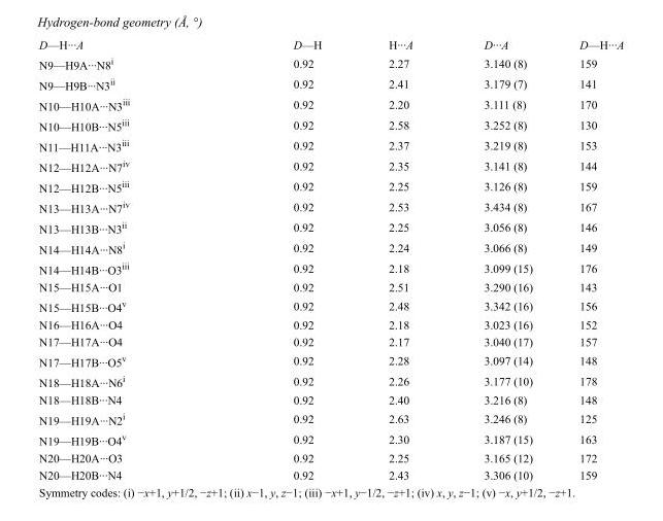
<table><tbody><tr><td>D—H···A</td><td>D—H</td><td>H···A</td><td>D···A</td><td>D—H···A</td></tr><tr><td>N9—H9A···N8<sup>i</sup></td><td>0.92</td><td>2.27</td><td>3.140 (8)</td><td>159</td></tr><tr><td>N9—H9B···N3<sup>ii</sup></td><td>0.92</td><td>2.41</td><td>3.179 (7)</td><td>141</td></tr><tr><td>N10—H10A···N3<sup>iii</sup></td><td>0.92</td><td>2.20</td><td>3.111 (8)</td><td>170</td></tr><tr><td>N10—H10B···N5<sup>iii</sup></td><td>0.92</td><td>2.58</td><td>3.252 (8)</td><td>130</td></tr><tr><td>N11—H11A···N3<sup>iii</sup></td><td>0.92</td><td>2.37</td><td>3.219 (8)</td><td>153</td></tr><tr><td>N12—H12A···N7<sup>iv</sup></td><td>0.92</td><td>2.35</td><td>3.141 (8)</td><td>144</td></tr><tr><td>N12—H12B···N5<sup>iii</sup></td><td>0.92</td><td>2.25</td><td>3.126 (8)</td><td>159</td></tr><tr><td>N13—H13A···N7<sup>iv</sup></td><td>0.92</td><td>2.53</td><td>3.434 (8)</td><td>167</td></tr><tr><td>N13—H13B···N3<sup>ii</sup></td><td>0.92</td><td>2.25</td><td>3.056 (8)</td><td>146</td></tr><tr><td>N14—H14A···N8<sup>i</sup></td><td>0.92</td><td>2.24</td><td>3.066 (8)</td><td>149</td></tr><tr><td>N14—H14B···O3<sup>iii</sup></td><td>0.92</td><td>2.18</td><td>3.099 (15)</td><td>176</td></tr><tr><td>N15—H15A···O1</td><td>0.92</td><td>2.51</td><td>3.290 (16)</td><td>143</td></tr><tr><td>N15—H15B···O4<sup>v</sup></td><td>0.92</td><td>2.48</td><td>3.342 (16)</td><td>156</td></tr><tr><td>N16—H16A···O4</td><td>0.92</td><td>2.18</td><td>3.023 (16)</td><td>152</td></tr><tr><td>N17—H17A···O4</td><td>0.92</td><td>2.17</td><td>3.040 (17)</td><td>157</td></tr><tr><td>N17—H17B···O5<sup>v</sup></td><td>0.92</td><td>2.28</td><td>3.097 (14)</td><td>148</td></tr><tr><td>N18—H18A···N6<sup>i</sup></td><td>0.92</td><td>2.26</td><td>3.177 (10)</td><td>178</td></tr><tr><td>N18—H18B···N4</td><td>0.92</td><td>2.40</td><td>3.216 (8)</td><td>148</td></tr><tr><td>N19—H19A···N2<sup>i</sup></td><td>0.92</td><td>2.63</td><td>3.246 (8)</td><td>125</td></tr><tr><td>N19—H19B···O4<sup>v</sup></td><td>0.92</td><td>2.30</td><td>3.187 (15)</td><td>163</td></tr><tr><td>N20—H20A···O3</td><td>0.92</td><td>2.25</td><td>3.165 (12)</td><td>172</td></tr><tr><td>N20—H20B···N4</td><td>0.92</td><td>2.43</td><td>3.306 (10)</td><td>159</td></tr></tbody></table>